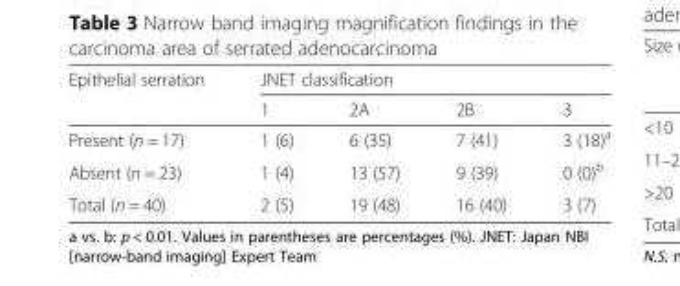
<table><thead><tr><td rowspan="2">Epithelial serration</td><td colspan="4">JNET classification</td></tr><tr><td>1</td><td>2A</td><td>2B</td><td>3</td></tr></thead><tbody><tr><td>Present (n = 17)</td><td>1 (6)</td><td>6 (35)</td><td>7 (41)</td><td>3 (18)<sup>a</sup></td></tr><tr><td>Absent (n = 23)</td><td>1 (4)</td><td>13 (57)</td><td>9 (39)</td><td>0 (0)<sup>b</sup></td></tr><tr><td>Total (n = 40)</td><td>2 (5)</td><td>19 (48)</td><td>16 (40)</td><td>3 (7)</td></tr></tbody></table>